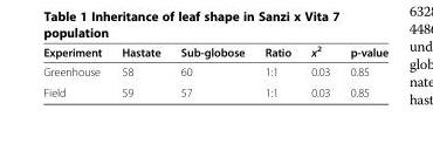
<table><thead><tr><td>Experiment</td><td>Hastate</td><td>Sub-globose</td><td>Ratio</td><td>x<sup>2</sup></td><td>p-value</td></tr></thead><tbody><tr><td>Greenhouse</td><td>58</td><td>60</td><td>1:1</td><td>0.03</td><td>0.85</td></tr><tr><td>Field</td><td>59</td><td>57</td><td>1:1</td><td>0.03</td><td>0.85</td></tr></tbody></table>